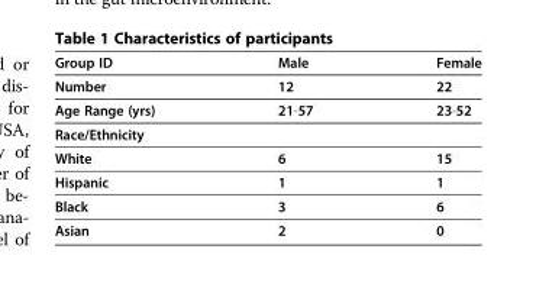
<table><thead><tr><td>Group ID</td><td>Male</td><td>Female</td></tr></thead><tbody><tr><td>Number</td><td>12</td><td>22</td></tr><tr><td>Age Range (yrs)</td><td>21-57</td><td>23-52</td></tr><tr><td colspan="3">Race/Ethnicity</td></tr><tr><td>White</td><td>6</td><td>15</td></tr><tr><td>Hispanic</td><td>1</td><td>1</td></tr><tr><td>Black</td><td>3</td><td>6</td></tr><tr><td>Asian</td><td>2</td><td>0</td></tr></tbody></table>